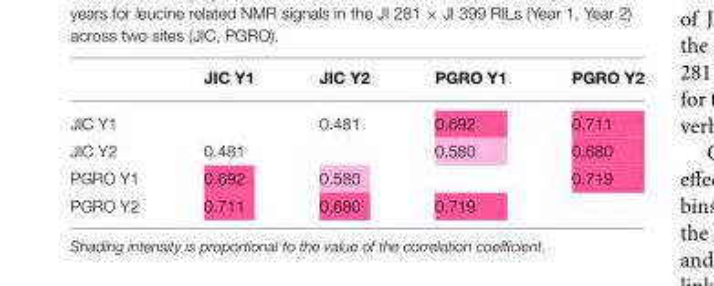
<table><thead><tr><td></td><td>JIC Y1</td><td>JIC Y2</td><td>PGRO Y1</td><td>PGRO Y2</td></tr></thead><tbody><tr><td>JIC Y1</td><td></td><td>0.481</td><td>0.692</td><td>0.711</td></tr><tr><td>JIC Y2</td><td>0.481</td><td></td><td>0.580</td><td>0.680</td></tr><tr><td>PGRO Y1</td><td>0.692</td><td>0.580</td><td></td><td>0.719</td></tr><tr><td>PGRO Y2</td><td>0.711</td><td>0.680</td><td>0.719</td><td></td></tr></tbody></table>